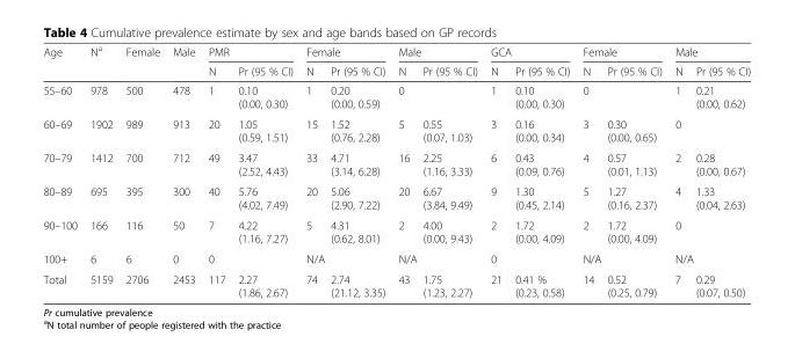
<table><thead><tr><td rowspan="2">Age</td><td rowspan="2">N<sup>a</sup></td><td rowspan="2">Female</td><td rowspan="2">Male</td><td colspan="2">PMR</td><td colspan="2">Female</td><td colspan="2">Male</td><td colspan="2">GCA</td><td colspan="2">Female</td><td colspan="2">Male</td></tr><tr><td>N</td><td>Pr (95 % CI)</td><td>N</td><td>Pr (95 % CI)</td><td>N</td><td>Pr (95 % CI)</td><td>N</td><td>Pr (95 % CI)</td><td>N</td><td>Pr (95 % CI)</td><td>N</td><td>Pr (95 % CI)</td></tr></thead><tbody><tr><td>55–60</td><td>978</td><td>500</td><td>478</td><td>1</td><td>0.10 (0.00, 0.30)</td><td>1</td><td>0.20 (0.00, 0.59)</td><td>0</td><td></td><td>1</td><td>0.10 (0.00, 0.30)</td><td>0</td><td></td><td>1</td><td>0.21 (0.00, 0.62)</td></tr><tr><td>60–69</td><td>1902</td><td>989</td><td>913</td><td>20</td><td>1.05 (0.59, 1.51)</td><td>15</td><td>1.52 (0.76, 2.28)</td><td>5</td><td>0.55 (0.07, 1.03)</td><td>3</td><td>0.16 (0.00, 0.34)</td><td>3</td><td>0.30 (0.00, 0.65)</td><td colspan="2">0</td></tr><tr><td>70–79</td><td>1412</td><td>700</td><td>712</td><td>49</td><td>3.47 (2.52, 4.43)</td><td>33</td><td>4.71 (3.14, 6.28)</td><td>16</td><td>2.25 (1.16, 3.33)</td><td>6</td><td>0.43 (0.09, 0.76)</td><td>4</td><td>0.57 (0.01, 1.13)</td><td>2</td><td>0.28 (0.00, 0.67)</td></tr><tr><td>80–89</td><td>695</td><td>395</td><td>300</td><td>40</td><td>5.76 (4.02, 7.49)</td><td>20</td><td>5.06 (2.90, 7.22)</td><td>20</td><td>6.67 (3.84, 9.49)</td><td>9</td><td>1.30 (0.45, 2.14)</td><td>5</td><td>1.27 (0.16, 2.37)</td><td>4</td><td>1.33 (0.04, 2.63)</td></tr><tr><td>90–100</td><td>166</td><td>116</td><td>50</td><td>7</td><td>4.22 (1.16, 7.27)</td><td>5</td><td>4.31 (0.62, 8.01)</td><td>2</td><td>4.00 (0.00, 9.43)</td><td>2</td><td>1.72 (0.00, 4.09)</td><td>2</td><td>1.72 (0.00, 4.09)</td><td colspan="2">0</td></tr><tr><td>100+</td><td>6</td><td>6</td><td>0</td><td colspan="2">0</td><td colspan="2">N/A</td><td colspan="2">N/A</td><td colspan="2">0</td><td colspan="2">N/A</td><td colspan="2">N/A</td></tr><tr><td>Total</td><td>5159</td><td>2706</td><td>2453</td><td>117</td><td>2.27 (1.86, 2.67)</td><td>74</td><td>2.74 (21.12, 3.35)</td><td>43</td><td>1.75 (1.23, 2.27)</td><td>21</td><td>0.41 % (0.23, 0.58)</td><td>14</td><td>0.52 (0.25, 0.79)</td><td>7</td><td>0.29 (0.07, 0.50)</td></tr></tbody></table>